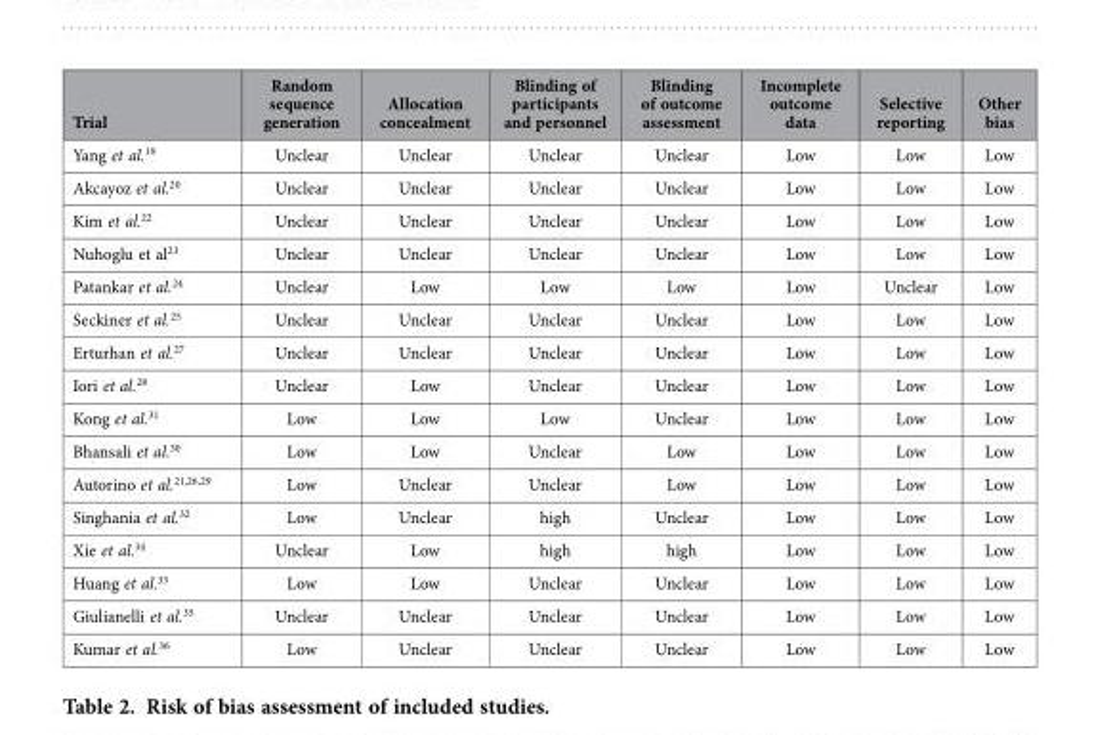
<table><thead><tr><td>Trial</td><td>Random sequence generation</td><td>Allocation concealment</td><td>Blinding of participants and personnel</td><td>Blinding of outcome assessment</td><td>Incomplete outcome data</td><td>Selective reporting</td><td>Other bias</td></tr></thead><tbody><tr><td>Yang et al.<sup>19</sup></td><td>Unclear</td><td>Unclear</td><td>Unclear</td><td>Unclear</td><td>Low</td><td>Low</td><td>Low</td></tr><tr><td>Akcayoz et al.<sup>20</sup></td><td>Unclear</td><td>Unclear</td><td>Unclear</td><td>Unclear</td><td>Low</td><td>Low</td><td>Low</td></tr><tr><td>Kim et al.<sup>22</sup></td><td>Unclear</td><td>Unclear</td><td>Unclear</td><td>Unclear</td><td>Low</td><td>Low</td><td>Low</td></tr><tr><td>Nuhoglu et al<sup>23</sup></td><td>Unclear</td><td>Unclear</td><td>Unclear</td><td>Unclear</td><td>Low</td><td>Low</td><td>Low</td></tr><tr><td>Patankar et al.<sup>24</sup></td><td>Unclear</td><td>Low</td><td>Low</td><td>Low</td><td>Low</td><td>Unclear</td><td>Low</td></tr><tr><td>Seckiner et al.<sup>25</sup></td><td>Unclear</td><td>Unclear</td><td>Unclear</td><td>Unclear</td><td>Low</td><td>Low</td><td>Low</td></tr><tr><td>Erturhan et al.<sup>27</sup></td><td>Unclear</td><td>Unclear</td><td>Unclear</td><td>Unclear</td><td>Low</td><td>Low</td><td>Low</td></tr><tr><td>Iori et al.<sup>28</sup></td><td>Unclear</td><td>Low</td><td>Unclear</td><td>Unclear</td><td>Low</td><td>Low</td><td>Low</td></tr><tr><td>Kong et al.<sup>31</sup></td><td>Low</td><td>Low</td><td>Low</td><td>Unclear</td><td>Low</td><td>Low</td><td>Low</td></tr><tr><td>Bhansali et al.<sup>30</sup></td><td>Low</td><td>Low</td><td>Unclear</td><td>Low</td><td>Low</td><td>Low</td><td>Low</td></tr><tr><td>Autorino et al.<sup>21</sup>,<sup>26</sup>,<sup>29</sup></td><td>Low</td><td>Unclear</td><td>Unclear</td><td>Low</td><td>Low</td><td>Low</td><td>Low</td></tr><tr><td>Singhania et al.<sup>32</sup></td><td>Low</td><td>Unclear</td><td>high</td><td>Unclear</td><td>Low</td><td>Low</td><td>Low</td></tr><tr><td>Xie et al.<sup>34</sup></td><td>Unclear</td><td>Low</td><td>high</td><td>high</td><td>Low</td><td>Low</td><td>Low</td></tr><tr><td>Huang et al.<sup>33</sup></td><td>Low</td><td>Low</td><td>Unclear</td><td>Unclear</td><td>Low</td><td>Low</td><td>Low</td></tr><tr><td>Giulianelli et al.<sup>35</sup></td><td>Unclear</td><td>Unclear</td><td>Unclear</td><td>Unclear</td><td>Low</td><td>Low</td><td>Low</td></tr><tr><td>Kumar et al.<sup>36</sup></td><td>Low</td><td>Unclear</td><td>Unclear</td><td>Unclear</td><td>Low</td><td>Low</td><td>Low</td></tr></tbody></table>